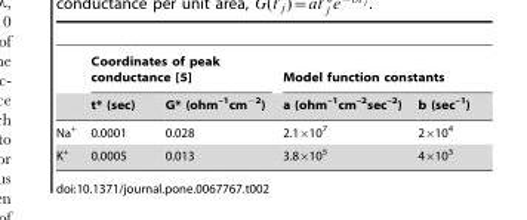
<table><thead><tr><td rowspan="2"></td><td colspan="2">Coordinates of peak conductance [5]</td><td colspan="2">Model function constants</td></tr><tr><td>t* (sec)</td><td>G* (ohm<sup>–1</sup>cm<sup>−2</sup>)</td><td>a (ohm<sup>–1</sup>cm<sup>–2</sup>sec<sup>–2</sup>)</td><td>b (sec<sup>–1</sup>)</td></tr></thead><tbody><tr><td>Na<sup>+</sup></td><td>0.0001</td><td>0.028</td><td>2.1×10<sup>7</sup></td><td>2×10<sup>4</sup></td></tr><tr><td>K<sup>+</sup></td><td>0.0005</td><td>0.013</td><td>3.8×10<sup>5</sup></td><td>4×10<sup>3</sup></td></tr></tbody></table>